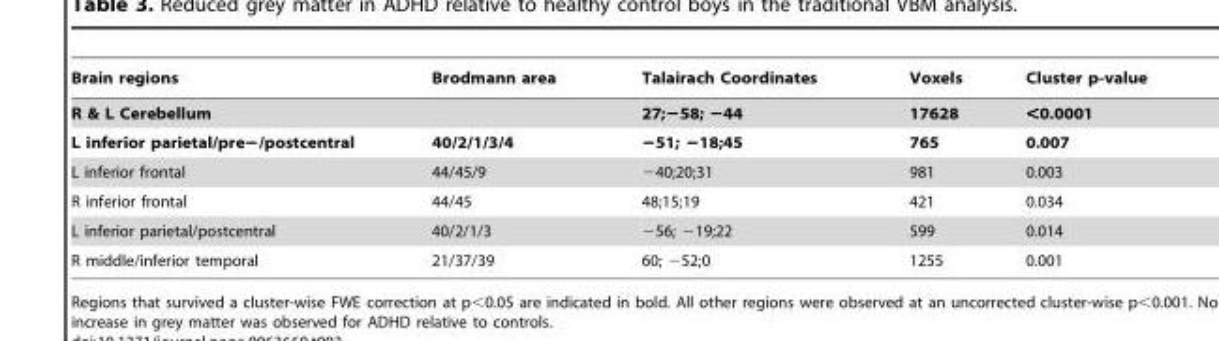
<table><thead><tr><td>Brain regions</td><td>Brodmann area</td><td>Talairach Coordinates</td><td>Voxels</td><td>Cluster p-value</td></tr></thead><tbody><tr><td>R &amp; L Cerebellum</td><td></td><td>27;−58; −44</td><td>17628</td><td>&lt;0.0001</td></tr><tr><td>L inferior parietal/pre−/postcentral</td><td>40/2/1/3/4</td><td>−51; −18;45</td><td>765</td><td>0.007</td></tr><tr><td>L inferior frontal</td><td>44/45/9</td><td>−40;20;31</td><td>981</td><td>0.003</td></tr><tr><td>R inferior frontal</td><td>44/45</td><td>48;15;19</td><td>421</td><td>0.034</td></tr><tr><td>L inferior parietal/postcentral</td><td>40/2/1/3</td><td>−56; −19;22</td><td>599</td><td>0.014</td></tr><tr><td>R middle/inferior temporal</td><td>21/37/39</td><td>60; −52;0</td><td>1255</td><td>0.001</td></tr></tbody></table>